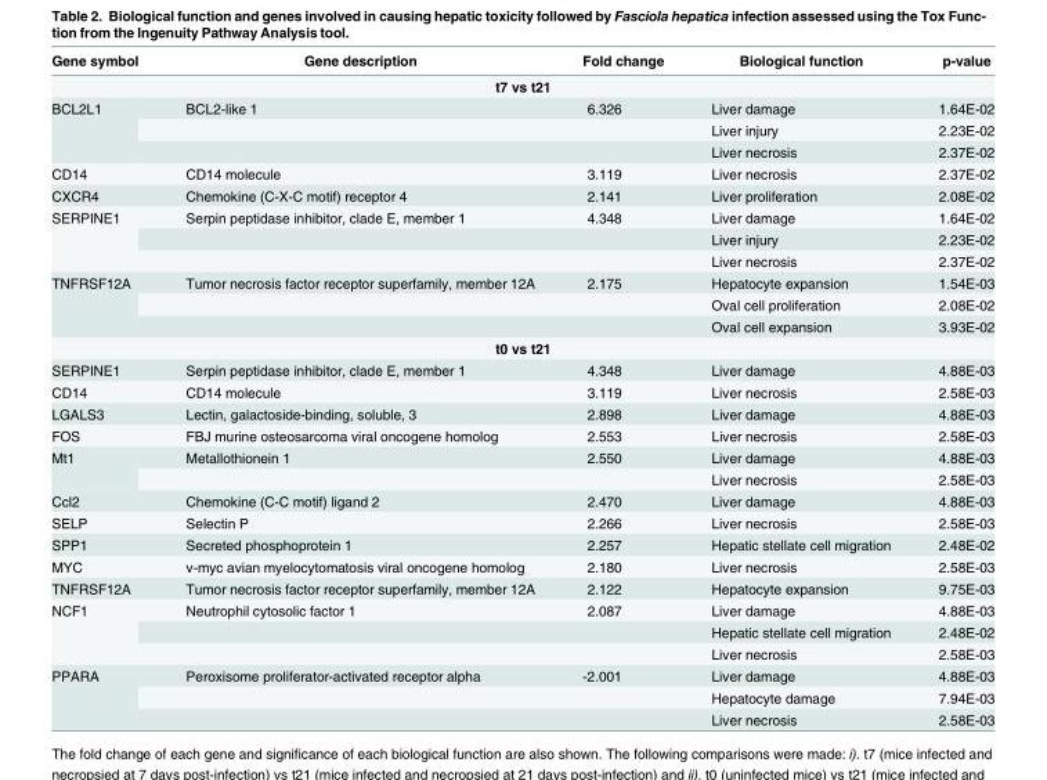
<table><thead><tr><td>Gene symbol</td><td>Gene description</td><td>Fold change</td><td>Biological function</td><td>p-value</td></tr></thead><tbody><tr><td colspan="5">t7 vs t21</td></tr><tr><td rowspan="3">BCL2L1</td><td>BCL2-like 1</td><td>6.326</td><td>Liver damage</td><td>1.64E-02</td></tr><tr><td></td><td></td><td>Liver injury</td><td>2.23E-02</td></tr><tr><td></td><td></td><td>Liver necrosis</td><td>2.37E-02</td></tr><tr><td>CD14</td><td>CD14 molecule</td><td>3.119</td><td>Liver necrosis</td><td>2.37E-02</td></tr><tr><td>CXCR4</td><td>Chemokine (C-X-C motif) receptor 4</td><td>2.141</td><td>Liver proliferation</td><td>2.08E-02</td></tr><tr><td rowspan="3">SERPINE1</td><td>Serpin peptidase inhibitor, clade E, member 1</td><td>4.348</td><td>Liver damage</td><td>1.64E-02</td></tr><tr><td></td><td></td><td>Liver injury</td><td>2.23E-02</td></tr><tr><td></td><td></td><td>Liver necrosis</td><td>2.37E-02</td></tr><tr><td rowspan="3">TNFRSF12A</td><td>Tumor necrosis factor receptor superfamily, member 12A</td><td>2.175</td><td>Hepatocyte expansion</td><td>1.54E-03</td></tr><tr><td></td><td></td><td>Oval cell proliferation</td><td>2.08E-02</td></tr><tr><td></td><td></td><td>Oval cell expansion</td><td>3.93E-02</td></tr><tr><td colspan="5">t0 vs t21</td></tr><tr><td>SERPINE1</td><td>Serpin peptidase inhibitor, clade E, member 1</td><td>4.348</td><td>Liver damage</td><td>4.88E-03</td></tr><tr><td>CD14</td><td>CD14 molecule</td><td>3.119</td><td>Liver necrosis</td><td>2.58E-03</td></tr><tr><td>LGALS3</td><td>Lectin, galactoside-binding, soluble, 3</td><td>2.898</td><td>Liver damage</td><td>4.88E-03</td></tr><tr><td>FOS</td><td>FBJ murine osteosarcoma viral oncogene homolog</td><td>2.553</td><td>Liver necrosis</td><td>2.58E-03</td></tr><tr><td rowspan="2">Mt1</td><td>Metallothionein 1</td><td>2.550</td><td>Liver damage</td><td>4.88E-03</td></tr><tr><td></td><td></td><td>Liver necrosis</td><td>2.58E-03</td></tr><tr><td>Ccl2</td><td>Chemokine (C-C motif) ligand 2</td><td>2.470</td><td>Liver damage</td><td>4.88E-03</td></tr><tr><td>SELP</td><td>Selectin P</td><td>2.266</td><td>Liver necrosis</td><td>2.58E-03</td></tr><tr><td>SPP1</td><td>Secreted phosphoprotein 1</td><td>2.257</td><td>Hepatic stellate cell migration</td><td>2.48E-02</td></tr><tr><td>MYC</td><td>v-myc avian myelocytomatosis viral oncogene homolog</td><td>2.180</td><td>Liver necrosis</td><td>2.58E-03</td></tr><tr><td>TNFRSF12A</td><td>Tumor necrosis factor receptor superfamily, member 12A</td><td>2.122</td><td>Hepatocyte expansion</td><td>9.75E-03</td></tr><tr><td rowspan="3">NCF1</td><td>Neutrophil cytosolic factor 1</td><td>2.087</td><td>Liver damage</td><td>4.88E-03</td></tr><tr><td></td><td></td><td>Hepatic stellate cell migration</td><td>2.48E-02</td></tr><tr><td></td><td></td><td>Liver necrosis</td><td>2.58E-03</td></tr><tr><td rowspan="3">PPARA</td><td>Peroxisome proliferator-activated receptor alpha</td><td>-2.001</td><td>Liver damage</td><td>4.88E-03</td></tr><tr><td></td><td></td><td>Hepatocyte damage</td><td>7.94E-03</td></tr><tr><td></td><td></td><td>Liver necrosis</td><td>2.58E-03</td></tr></tbody></table>